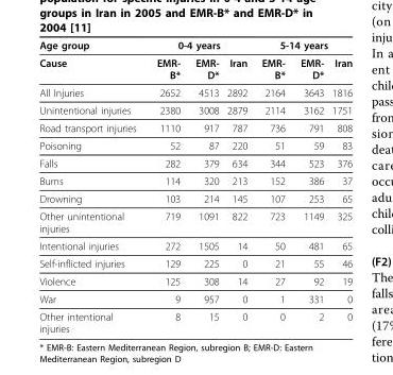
<table><thead><tr><td rowspan="2">Age group Cause</td><td colspan="3">0-4 years</td><td colspan="3">5-14 years</td></tr><tr><td>EMR- B*</td><td>EMR- D*</td><td>Iran</td><td>EMR- B*</td><td>EMR- D*</td><td>Iran</td></tr></thead><tbody><tr><td>All Injuries</td><td>2652</td><td>4513</td><td>2892</td><td>2164</td><td>3643</td><td>1816</td></tr><tr><td>Unintentional injuries</td><td>2380</td><td>3008</td><td>2879</td><td>2114</td><td>3162</td><td>1751</td></tr><tr><td>Road transport injuries</td><td>1110</td><td>917</td><td>787</td><td>736</td><td>791</td><td>808</td></tr><tr><td>Poisoning</td><td>52</td><td>87</td><td>220</td><td>51</td><td>59</td><td>83</td></tr><tr><td>Falls</td><td>282</td><td>379</td><td>634</td><td>344</td><td>523</td><td>376</td></tr><tr><td>Burns</td><td>114</td><td>320</td><td>213</td><td>152</td><td>386</td><td>37</td></tr><tr><td>Drowning</td><td>103</td><td>214</td><td>145</td><td>107</td><td>253</td><td>65</td></tr><tr><td>Other unintentional injuries</td><td>719</td><td>1091</td><td>822</td><td>723</td><td>1149</td><td>325</td></tr><tr><td>Intentional injuries</td><td>272</td><td>1505</td><td>14</td><td>50</td><td>481</td><td>65</td></tr><tr><td>Self-inflicted injuries</td><td>129</td><td>225</td><td>0</td><td>21</td><td>55</td><td>46</td></tr><tr><td>Violence</td><td>125</td><td>308</td><td>14</td><td>27</td><td>92</td><td>19</td></tr><tr><td>War</td><td>9</td><td>957</td><td>0</td><td>1</td><td>331</td><td>0</td></tr><tr><td>Other intentional injuries</td><td>8</td><td>15</td><td>0</td><td>0</td><td>2</td><td>0</td></tr></tbody></table>